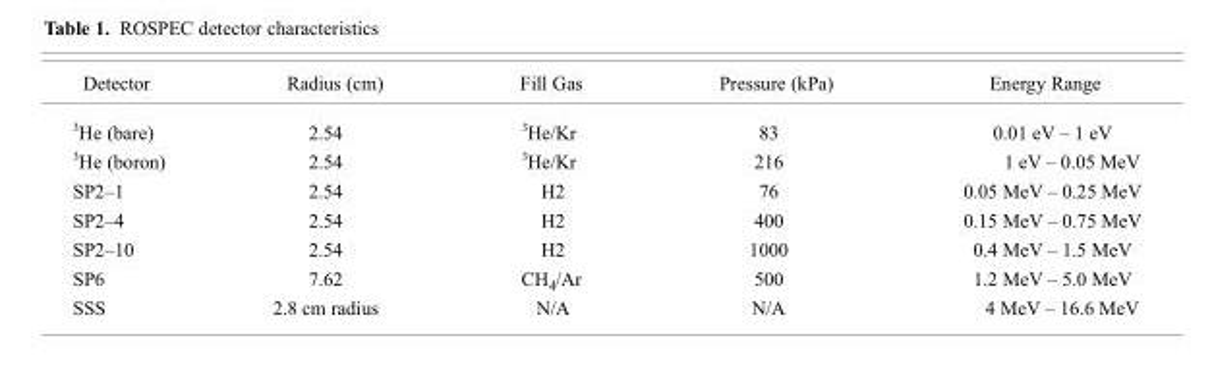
<table><thead><tr><td>Detector</td><td>Radius (cm)</td><td>Fill Gas</td><td>Pressure (kPa)</td><td>Energy Range</td></tr></thead><tbody><tr><td><sup>3</sup>He (bare)</td><td>2.54</td><td><sup>3</sup>He/Kr</td><td>83</td><td>0.01 eV – 1 eV</td></tr><tr><td><sup>3</sup>He (boron)</td><td>2.54</td><td><sup>3</sup>He/Kr</td><td>216</td><td>1 eV – 0.05 MeV</td></tr><tr><td>SP2–1</td><td>2.54</td><td>H2</td><td>76</td><td>0.05 MeV – 0.25 MeV</td></tr><tr><td>SP2–4</td><td>2.54</td><td>H2</td><td>400</td><td>0.15 MeV – 0.75 MeV</td></tr><tr><td>SP2–10</td><td>2.54</td><td>H2</td><td>1000</td><td>0.4 MeV – 1.5 MeV</td></tr><tr><td>SP6</td><td>7.62</td><td>CH<sub>4</sub>/Ar</td><td>500</td><td>1.2 MeV – 5.0 MeV</td></tr><tr><td>SSS</td><td>2.8 cm radius</td><td>N/A</td><td>N/A</td><td>4 MeV – 16.6 MeV</td></tr></tbody></table>